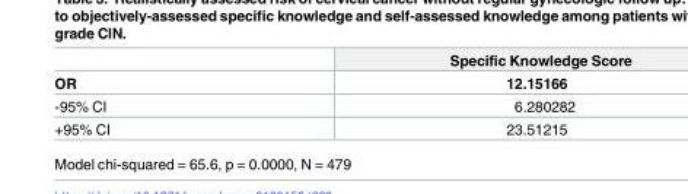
<table><thead><tr><td></td><td>Specific Knowledge Score</td></tr></thead><tbody><tr><td>OR</td><td>12.15166</td></tr><tr><td>-95% CI</td><td>6.280282</td></tr><tr><td>+95% CI</td><td>23.51215</td></tr></tbody></table>